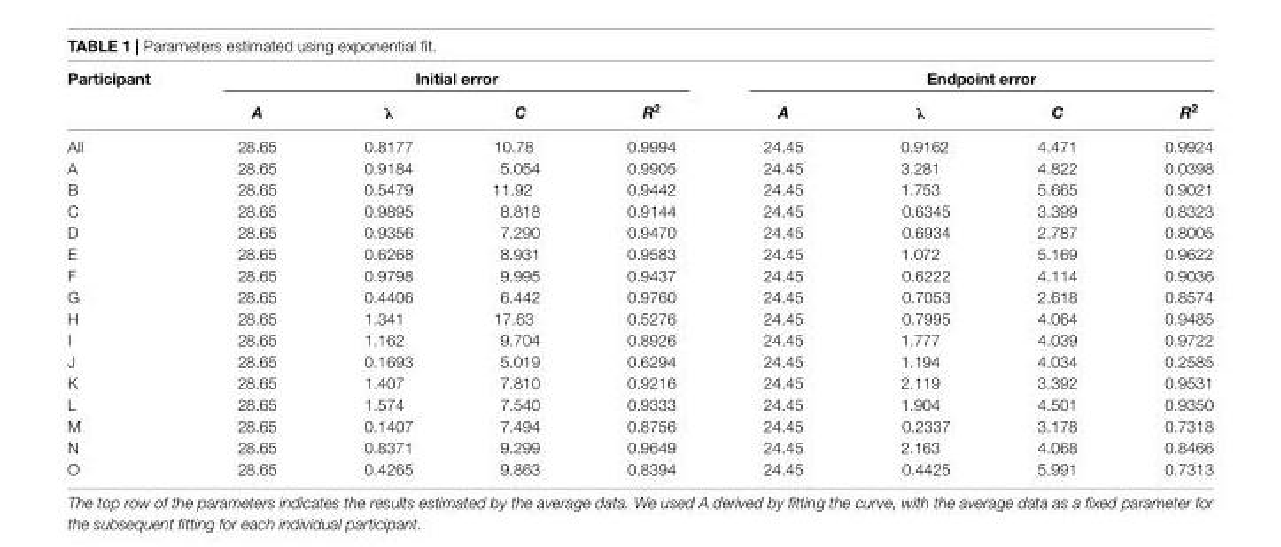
<table><thead><tr><td rowspan="2">Participant</td><td colspan="4">Initial error</td><td colspan="4">Endpoint error</td></tr><tr><td>A</td><td>λ</td><td>C</td><td>R<sup>2</sup></td><td>A</td><td>λ</td><td>C</td><td>R<sup>2</sup></td></tr></thead><tbody><tr><td>All</td><td>28.65</td><td>0.8177</td><td>10.78</td><td>0.9994</td><td>24.45</td><td>0.9162</td><td>4.471</td><td>0.9924</td></tr><tr><td>A</td><td>28.65</td><td>0.9184</td><td>5.054</td><td>0.9905</td><td>24.45</td><td>3.281</td><td>4.822</td><td>0.0398</td></tr><tr><td>B</td><td>28.65</td><td>0.5479</td><td>11.92</td><td>0.9442</td><td>24.45</td><td>1.753</td><td>5.665</td><td>0.9021</td></tr><tr><td>C</td><td>28.65</td><td>0.9895</td><td>8.818</td><td>0.9144</td><td>24.45</td><td>0.6345</td><td>3.399</td><td>0.8323</td></tr><tr><td>D</td><td>28.65</td><td>0.9356</td><td>7.290</td><td>0.9470</td><td>24.45</td><td>0.6934</td><td>2.787</td><td>0.8005</td></tr><tr><td>E</td><td>28.65</td><td>0.6268</td><td>8.931</td><td>0.9583</td><td>24.45</td><td>1.072</td><td>5.169</td><td>0.9622</td></tr><tr><td>F</td><td>28.65</td><td>0.9798</td><td>9.995</td><td>0.9437</td><td>24.45</td><td>0.6222</td><td>4.114</td><td>0.9036</td></tr><tr><td>G</td><td>28.65</td><td>0.4406</td><td>6.442</td><td>0.9760</td><td>24.45</td><td>0.7053</td><td>2.618</td><td>0.8574</td></tr><tr><td>H</td><td>28.65</td><td>1.341</td><td>17.63</td><td>0.5276</td><td>24.45</td><td>0.7995</td><td>4.064</td><td>0.9485</td></tr><tr><td>I</td><td>28.65</td><td>1.162</td><td>9.704</td><td>0.8926</td><td>24.45</td><td>1.777</td><td>4.039</td><td>0.9722</td></tr><tr><td>J</td><td>28.65</td><td>0.1693</td><td>5.019</td><td>0.6294</td><td>24.45</td><td>1.194</td><td>4.034</td><td>0.2585</td></tr><tr><td>K</td><td>28.65</td><td>1.407</td><td>7.810</td><td>0.9216</td><td>24.45</td><td>2.119</td><td>3.392</td><td>0.9531</td></tr><tr><td>L</td><td>28.65</td><td>1.574</td><td>7.540</td><td>0.9333</td><td>24.45</td><td>1.904</td><td>4.501</td><td>0.9350</td></tr><tr><td>M</td><td>28.65</td><td>0.1407</td><td>7.494</td><td>0.8756</td><td>24.45</td><td>0.2337</td><td>3.178</td><td>0.7318</td></tr><tr><td>N</td><td>28.65</td><td>0.8371</td><td>9.299</td><td>0.9649</td><td>24.45</td><td>2.163</td><td>4.068</td><td>0.8466</td></tr><tr><td>O</td><td>28.65</td><td>0.4265</td><td>9.863</td><td>0.8394</td><td>24.45</td><td>0.4425</td><td>5.991</td><td>0.7313</td></tr></tbody></table>